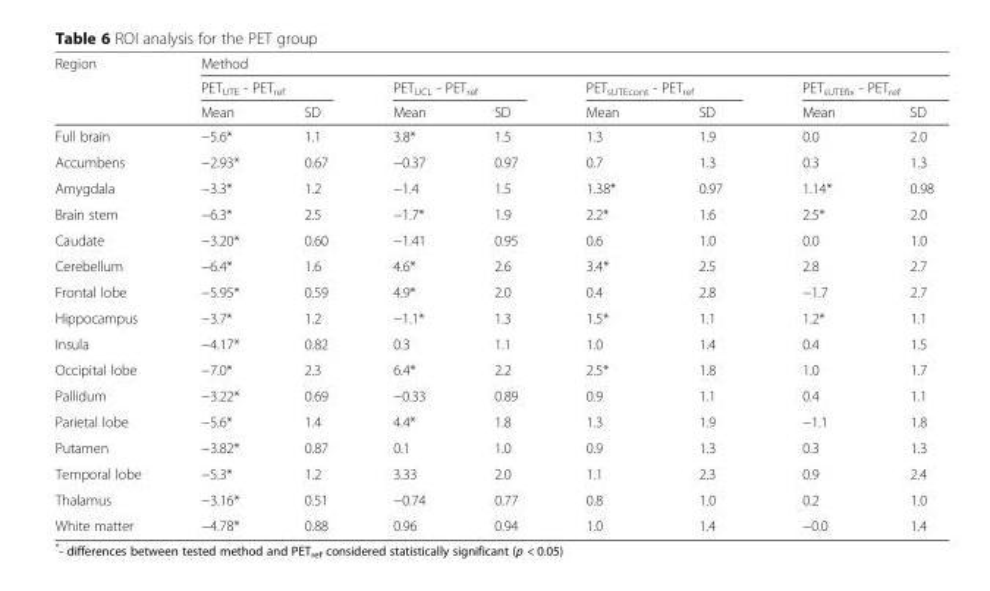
<table><thead><tr><td rowspan="3">Region</td><td colspan="8">Method</td></tr><tr><td colspan="2">PET<sub>UTE</sub> - PET<sub>ref</sub></td><td colspan="2">PET<sub>UCL</sub> - PET<sub>ref</sub></td><td colspan="2">PET<sub>sUTEcont</sub> - PET<sub>ref</sub></td><td colspan="2">PET<sub>sUTEfix</sub> - PET<sub>ref</sub></td></tr><tr><td>Mean</td><td>SD</td><td>Mean</td><td>SD</td><td>Mean</td><td>SD</td><td>Mean</td><td>SD</td></tr></thead><tbody><tr><td>Full brain</td><td>−5.6*</td><td>1.1</td><td>3.8*</td><td>1.5</td><td>1.3</td><td>1.9</td><td>0.0</td><td>2.0</td></tr><tr><td>Accumbens</td><td>−2.93*</td><td>0.67</td><td>−0.37</td><td>0.97</td><td>0.7</td><td>1.3</td><td>0.3</td><td>1.3</td></tr><tr><td>Amygdala</td><td>−3.3*</td><td>1.2</td><td>−1.4</td><td>1.5</td><td>1.38*</td><td>0.97</td><td>1.14*</td><td>0.98</td></tr><tr><td>Brain stem</td><td>−6.3*</td><td>2.5</td><td>−1.7*</td><td>1.9</td><td>2.2*</td><td>1.6</td><td>2.5*</td><td>2.0</td></tr><tr><td>Caudate</td><td>−3.20*</td><td>0.60</td><td>−1.41</td><td>0.95</td><td>0.6</td><td>1.0</td><td>0.0</td><td>1.0</td></tr><tr><td>Cerebellum</td><td>−6.4*</td><td>1.6</td><td>4.6*</td><td>2.6</td><td>3.4*</td><td>2.5</td><td>2.8</td><td>2.7</td></tr><tr><td>Frontal lobe</td><td>−5.95*</td><td>0.59</td><td>4.9*</td><td>2.0</td><td>0.4</td><td>2.8</td><td>−1.7</td><td>2.7</td></tr><tr><td>Hippocampus</td><td>−3.7*</td><td>1.2</td><td>−1.1*</td><td>1.3</td><td>1.5*</td><td>1.1</td><td>1.2*</td><td>1.1</td></tr><tr><td>Insula</td><td>−4.17*</td><td>0.82</td><td>0.3</td><td>1.1</td><td>1.0</td><td>1.4</td><td>0.4</td><td>1.5</td></tr><tr><td>Occipital lobe</td><td>−7.0*</td><td>2.3</td><td>6.4*</td><td>2.2</td><td>2.5*</td><td>1.8</td><td>1.0</td><td>1.7</td></tr><tr><td>Pallidum</td><td>−3.22*</td><td>0.69</td><td>−0.33</td><td>0.89</td><td>0.9</td><td>1.1</td><td>0.4</td><td>1.1</td></tr><tr><td>Parietal lobe</td><td>−5.6*</td><td>1.4</td><td>4.4*</td><td>1.8</td><td>1.3</td><td>1.9</td><td>−1.1</td><td>1.8</td></tr><tr><td>Putamen</td><td>−3.82*</td><td>0.87</td><td>0.1</td><td>1.0</td><td>0.9</td><td>1.3</td><td>0.3</td><td>1.3</td></tr><tr><td>Temporal lobe</td><td>−5.3*</td><td>1.2</td><td>3.33</td><td>2.0</td><td>1.1</td><td>2.3</td><td>0.9</td><td>2.4</td></tr><tr><td>Thalamus</td><td>−3.16*</td><td>0.51</td><td>−0.74</td><td>0.77</td><td>0.8</td><td>1.0</td><td>0.2</td><td>1.0</td></tr><tr><td>White matter</td><td>−4.78*</td><td>0.88</td><td>0.96</td><td>0.94</td><td>1.0</td><td>1.4</td><td>−0.0</td><td>1.4</td></tr></tbody></table>